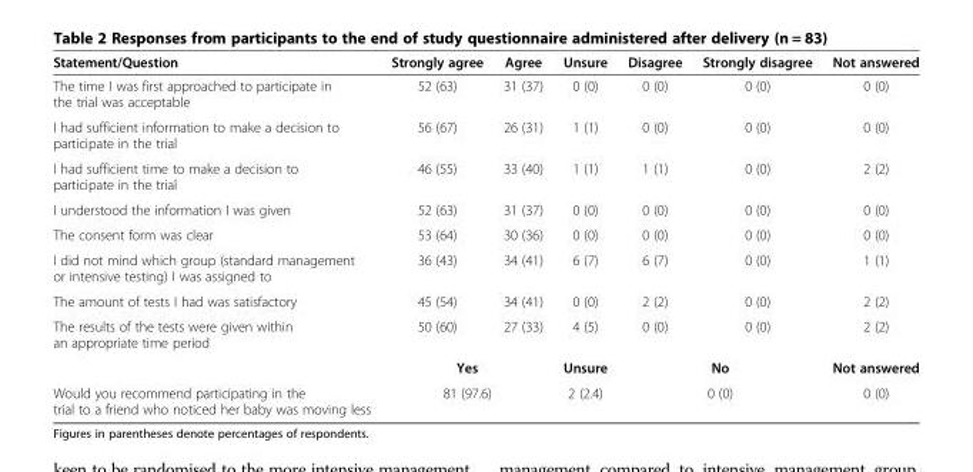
<table><thead><tr><td>Statement/Question</td><td>Strongly agree</td><td>Agree</td><td>Unsure</td><td>Disagree</td><td>Strongly disagree</td><td>Not answered</td></tr></thead><tbody><tr><td>The time I was first approached to participate in the trial was acceptable</td><td>52 (63)</td><td>31 (37)</td><td>0 (0)</td><td>0 (0)</td><td>0 (0)</td><td>0 (0)</td></tr><tr><td>I had sufficient information to make a decision to participate in the trial</td><td>56 (67)</td><td>26 (31)</td><td>1 (1)</td><td>0 (0)</td><td>0 (0)</td><td>0 (0)</td></tr><tr><td>I had sufficient time to make a decision to participate in the trial</td><td>46 (55)</td><td>33 (40)</td><td>1 (1)</td><td>1 (1)</td><td>0 (0)</td><td>2 (2)</td></tr><tr><td>I understood the information I was given</td><td>52 (63)</td><td>31 (37)</td><td>0 (0)</td><td>0 (0)</td><td>0 (0)</td><td>0 (0)</td></tr><tr><td>The consent form was clear</td><td>53 (64)</td><td>30 (36)</td><td>0 (0)</td><td>0 (0)</td><td>0 (0)</td><td>0 (0)</td></tr><tr><td>I did not mind which group (standard management or intensive testing) I was assigned to</td><td>36 (43)</td><td>34 (41)</td><td>6 (7)</td><td>6 (7)</td><td>0 (0)</td><td>1 (1)</td></tr><tr><td>The amount of tests I had was satisfactory</td><td>45 (54)</td><td>34 (41)</td><td>0 (0)</td><td>2 (2)</td><td>0 (0)</td><td>2 (2)</td></tr><tr><td rowspan="2">The results of the tests were given within an appropriate time period</td><td>50 (60)</td><td>27 (33)</td><td>4 (5)</td><td>0 (0)</td><td>0 (0)</td><td>2 (2)</td></tr><tr><td colspan="2">Yes</td><td>Unsure</td><td colspan="2">No</td><td>Not answered</td></tr><tr><td>Would you recommend participating in the trial to a friend who noticed her baby was moving less</td><td colspan="2">81 (97.6)</td><td>2 (2.4)</td><td colspan="2">0 (0)</td><td>0 (0)</td></tr></tbody></table>